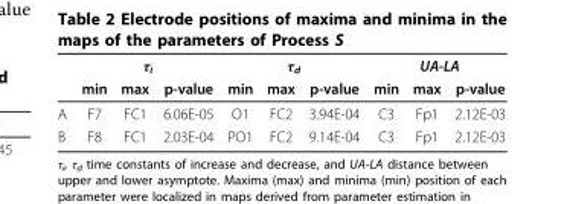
<table><thead><tr><td rowspan="2"></td><td colspan="3">τ<sub>i</sub></td><td colspan="3">τ<sub>d</sub></td><td colspan="3">UA-LA</td></tr><tr><td>min</td><td>max</td><td>p-value</td><td>min</td><td>max</td><td>p-value</td><td>min</td><td>max</td><td>p-value</td></tr></thead><tbody><tr><td>A</td><td>F7</td><td>FC1</td><td>6.06E-05</td><td>O1</td><td>FC2</td><td>3.94E-04</td><td>C3</td><td>Fp1</td><td>2.12E-03</td></tr><tr><td>B</td><td>F8</td><td>FC1</td><td>2.03E-04</td><td>PO1</td><td>FC2</td><td>9.14E-04</td><td>C3</td><td>Fp1</td><td>2.12E-03</td></tr></tbody></table>